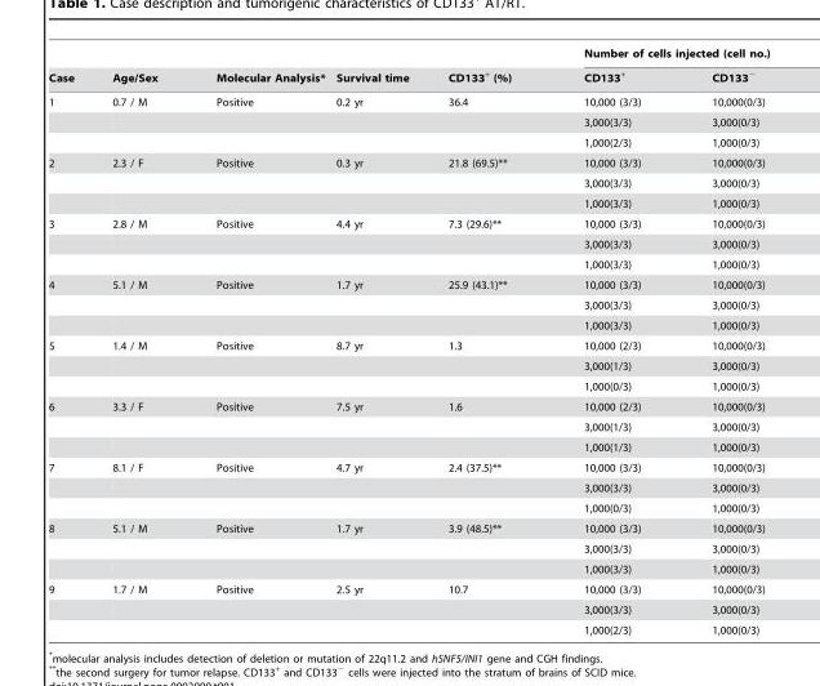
<table><thead><tr><td rowspan="2">Case</td><td rowspan="2">Age/Sex</td><td rowspan="2">Molecular Analysis*</td><td rowspan="2">Survival time</td><td rowspan="2">CD133<sup>+</sup> (%)</td><td colspan="2">Number of cells injected (cell no.)</td></tr><tr><td>CD133<sup>+</sup></td><td>CD133<sup>−</sup></td></tr></thead><tbody><tr><td rowspan="3">1</td><td>0.7 / M</td><td>Positive</td><td>0.2 yr</td><td>36.4</td><td>10,000 (3/3)</td><td>10,000(0/3)</td></tr><tr><td></td><td></td><td></td><td></td><td>3,000(3/3)</td><td>3,000(0/3)</td></tr><tr><td></td><td></td><td></td><td></td><td>1,000(2/3)</td><td>1,000(0/3)</td></tr><tr><td rowspan="3">2</td><td>2.3 / F</td><td>Positive</td><td>0.3 yr</td><td>21.8 (69.5)**</td><td>10,000 (3/3)</td><td>10,000(0/3)</td></tr><tr><td></td><td></td><td></td><td></td><td>3,000(3/3)</td><td>3,000(0/3)</td></tr><tr><td></td><td></td><td></td><td></td><td>1,000(3/3)</td><td>1,000(0/3)</td></tr><tr><td rowspan="3">3</td><td>2.8 / M</td><td>Positive</td><td>4.4 yr</td><td>7.3 (29.6)**</td><td>10,000 (3/3)</td><td>10,000(0/3)</td></tr><tr><td></td><td></td><td></td><td></td><td>3,000(3/3)</td><td>3,000(0/3)</td></tr><tr><td></td><td></td><td></td><td></td><td>1,000(3/3)</td><td>1,000(0/3)</td></tr><tr><td rowspan="3">4</td><td>5.1 / M</td><td>Positive</td><td>1.7 yr</td><td>25.9 (43.1)**</td><td>10,000 (3/3)</td><td>10,000(0/3)</td></tr><tr><td></td><td></td><td></td><td></td><td>3,000(3/3)</td><td>3,000(0/3)</td></tr><tr><td></td><td></td><td></td><td></td><td>1,000(3/3)</td><td>1,000(0/3)</td></tr><tr><td rowspan="3">5</td><td>1.4 / M</td><td>Positive</td><td>8.7 yr</td><td>1.3</td><td>10,000 (2/3)</td><td>10,000(0/3)</td></tr><tr><td></td><td></td><td></td><td></td><td>3,000(1/3)</td><td>3,000(0/3)</td></tr><tr><td></td><td></td><td></td><td></td><td>1,000(0/3)</td><td>1,000(0/3)</td></tr><tr><td rowspan="3">6</td><td>3.3 / F</td><td>Positive</td><td>7.5 yr</td><td>1.6</td><td>10,000 (2/3)</td><td>10,000(0/3)</td></tr><tr><td></td><td></td><td></td><td></td><td>3,000(1/3)</td><td>3,000(0/3)</td></tr><tr><td></td><td></td><td></td><td></td><td>1,000(1/3)</td><td>1,000(0/3)</td></tr><tr><td rowspan="3">7</td><td>8.1 / F</td><td>Positive</td><td>4.7 yr</td><td>2.4 (37.5)**</td><td>10,000 (3/3)</td><td>10,000(0/3)</td></tr><tr><td></td><td></td><td></td><td></td><td>3,000(3/3)</td><td>3,000(0/3)</td></tr><tr><td></td><td></td><td></td><td></td><td>1,000(0/3)</td><td>1,000(0/3)</td></tr><tr><td rowspan="3">8</td><td>5.1 / M</td><td>Positive</td><td>1.7 yr</td><td>3.9 (48.5)**</td><td>10,000 (3/3)</td><td>10,000(0/3)</td></tr><tr><td></td><td></td><td></td><td></td><td>3,000(3/3)</td><td>3,000(0/3)</td></tr><tr><td></td><td></td><td></td><td></td><td>1,000(3/3)</td><td>1,000(0/3)</td></tr><tr><td rowspan="3">9</td><td>1.7 / M</td><td>Positive</td><td>2.5 yr</td><td>10.7</td><td>10,000 (3/3)</td><td>10,000(0/3)</td></tr><tr><td></td><td></td><td></td><td></td><td>3,000(3/3)</td><td>3,000(0/3)</td></tr><tr><td></td><td></td><td></td><td></td><td>1,000(2/3)</td><td>1,000(0/3)</td></tr></tbody></table>